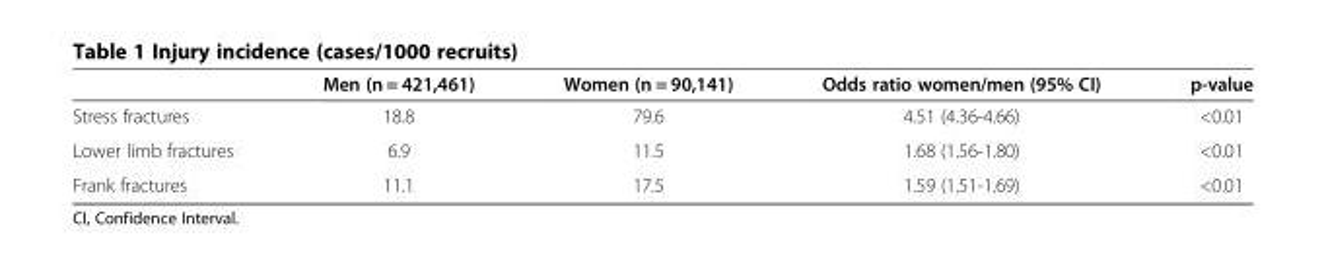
<table><thead><tr><td></td><td>Men (n = 421,461)</td><td>Women (n = 90,141)</td><td>Odds ratio women/men (95% CI)</td><td>p-value</td></tr></thead><tbody><tr><td>Stress fractures</td><td>18.8</td><td>79.6</td><td>4.51 (4.36-4.66)</td><td>&lt;0.01</td></tr><tr><td>Lower limb fractures</td><td>6.9</td><td>11.5</td><td>1.68 (1.56-1.80)</td><td>&lt;0.01</td></tr><tr><td>Frank fractures</td><td>11.1</td><td>17.5</td><td>1.59 (1.51-1.69)</td><td>&lt;0.01</td></tr></tbody></table>